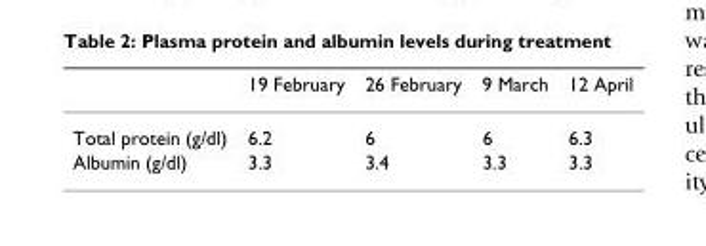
<table><thead><tr><td></td><td>19 February</td><td>26 February</td><td>9 March</td><td>12 April</td></tr></thead><tbody><tr><td>Total protein (g/dl)</td><td>6.2</td><td>6</td><td>6</td><td>6.3</td></tr><tr><td>Albumin (g/dl)</td><td>3.3</td><td>3.4</td><td>3.3</td><td>3.3</td></tr></tbody></table>